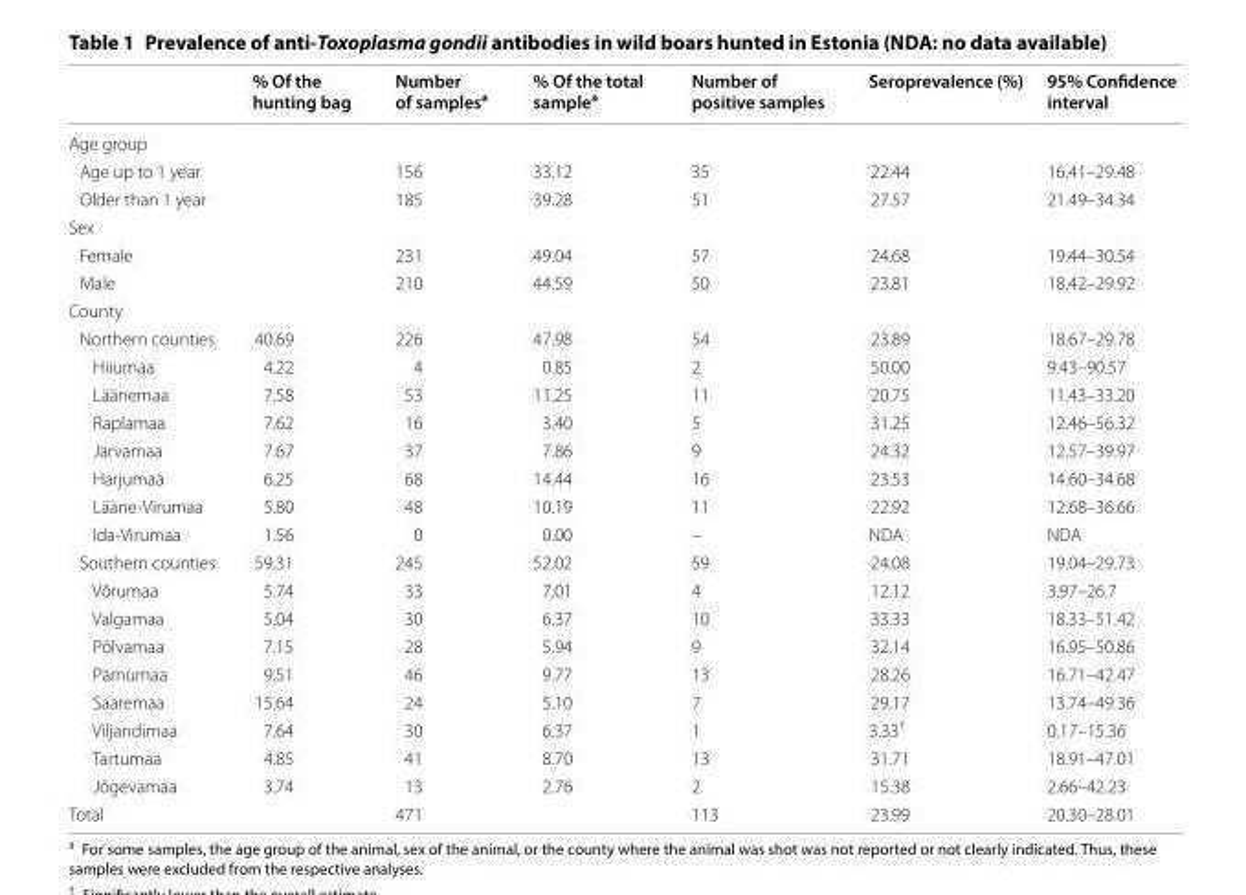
<table><thead><tr><td></td><td>% Of the hunting bag</td><td>Number of samples<sup>a</sup></td><td>% Of the total sample<sup>a</sup></td><td>Number of positive samples</td><td>Seroprevalence (%)</td><td>95% Confidence interval</td></tr></thead><tbody><tr><td colspan="7">Age group</td></tr><tr><td>Age up to 1 year</td><td></td><td>156</td><td>33.12</td><td>35</td><td>22.44</td><td>16.41–29.48</td></tr><tr><td>Older than 1 year</td><td></td><td>185</td><td>39.28</td><td>51</td><td>27.57</td><td>21.49–34.34</td></tr><tr><td colspan="7">Sex</td></tr><tr><td>Female</td><td></td><td>231</td><td>49.04</td><td>57</td><td>24.68</td><td>19.44–30.54</td></tr><tr><td>Male</td><td></td><td>210</td><td>44.59</td><td>50</td><td>23.81</td><td>18.42–29.92</td></tr><tr><td colspan="7">County</td></tr><tr><td>Northern counties</td><td>40.69</td><td>226</td><td>47.98</td><td>54</td><td>23.89</td><td>18.67–29.78</td></tr><tr><td>Hiiumaa</td><td>4.22</td><td>4</td><td>0.85</td><td>2</td><td>50.00</td><td>9.43–90.57</td></tr><tr><td>Läänemaa</td><td>7.58</td><td>53</td><td>11.25</td><td>11</td><td>20.75</td><td>11.43–33.20</td></tr><tr><td>Raplamaa</td><td>7.62</td><td>16</td><td>3.40</td><td>5</td><td>31.25</td><td>12.46–56.32</td></tr><tr><td>Järvamaa</td><td>7.67</td><td>37</td><td>7.86</td><td>9</td><td>24.32</td><td>12.57–39.97</td></tr><tr><td>Harjumaa</td><td>6.25</td><td>68</td><td>14.44</td><td>16</td><td>23.53</td><td>14.60–34.68</td></tr><tr><td>Lääne-Virumaa</td><td>5.80</td><td>48</td><td>10.19</td><td>11</td><td>22.92</td><td>12.68–36.66</td></tr><tr><td>Ida-Virumaa</td><td>1.56</td><td>0</td><td>0.00</td><td>–</td><td>NDA</td><td>NDA</td></tr><tr><td>Southern counties</td><td>59.31</td><td>245</td><td>52.02</td><td>59</td><td>24.08</td><td>19.04–29.73</td></tr><tr><td>Võrumaa</td><td>5.74</td><td>33</td><td>7.01</td><td>4</td><td>12.12</td><td>3.97–26.7</td></tr><tr><td>Valgamaa</td><td>5.04</td><td>30</td><td>6.37</td><td>10</td><td>33.33</td><td>18.33–51.42</td></tr><tr><td>Põlvamaa</td><td>7.15</td><td>28</td><td>5.94</td><td>9</td><td>32.14</td><td>16.95–50.86</td></tr><tr><td>Pärnumaa</td><td>9.51</td><td>46</td><td>9.77</td><td>13</td><td>28.26</td><td>16.71–42.47</td></tr><tr><td>Saaremaa</td><td>15.64</td><td>24</td><td>5.10</td><td>7</td><td>29.17</td><td>13.74–49.36</td></tr><tr><td>Viljandimaa</td><td>7.64</td><td>30</td><td>6.37</td><td>1</td><td>3.33<sup>†</sup></td><td>0.17–15.36</td></tr><tr><td>Tartumaa</td><td>4.85</td><td>41</td><td>8.70</td><td>13</td><td>31.71</td><td>18.91–47.01</td></tr><tr><td>Jõgevamaa</td><td>3.74</td><td>13</td><td>2.76</td><td>2</td><td>15.38</td><td>2.66–42.23</td></tr><tr><td>Total</td><td></td><td>471</td><td></td><td>113</td><td>23.99</td><td>20.30–28.01</td></tr></tbody></table>